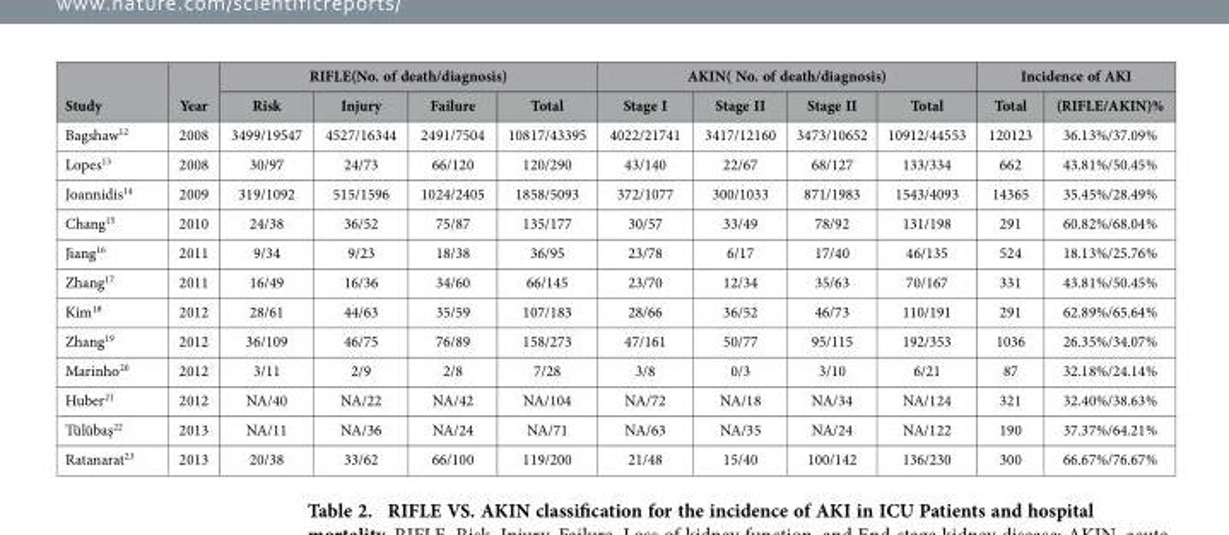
<table><thead><tr><td rowspan="2">Study</td><td rowspan="2">Year</td><td colspan="4">RIFLE(No. of death/diagnosis)</td><td colspan="4">AKIN( No. of death/diagnosis)</td><td colspan="2">Incidence of AKI</td></tr><tr><td>Risk</td><td>Injury</td><td>Failure</td><td>Total</td><td>Stage I</td><td>Stage II</td><td>Stage II</td><td>Total</td><td>Total</td><td>(RIFLE/AKIN)%</td></tr></thead><tbody><tr><td>Bagshaw<sup>12</sup></td><td>2008</td><td>3499/19547</td><td>4527/16344</td><td>2491/7504</td><td>10817/43395</td><td>4022/21741</td><td>3417/12160</td><td>3473/10652</td><td>10912/44553</td><td>120123</td><td>36.13%/37.09%</td></tr><tr><td>Lopes<sup>13</sup></td><td>2008</td><td>30/97</td><td>24/73</td><td>66/120</td><td>120/290</td><td>43/140</td><td>22/67</td><td>68/127</td><td>133/334</td><td>662</td><td>43.81%/50.45%</td></tr><tr><td>Joannidis<sup>14</sup></td><td>2009</td><td>319/1092</td><td>515/1596</td><td>1024/2405</td><td>1858/5093</td><td>372/1077</td><td>300/1033</td><td>871/1983</td><td>1543/4093</td><td>14365</td><td>35.45%/28.49%</td></tr><tr><td>Chang<sup>15</sup></td><td>2010</td><td>24/38</td><td>36/52</td><td>75/87</td><td>135/177</td><td>30/57</td><td>33/49</td><td>78/92</td><td>131/198</td><td>291</td><td>60.82%/68.04%</td></tr><tr><td>Jiang<sup>16</sup></td><td>2011</td><td>9/34</td><td>9/23</td><td>18/38</td><td>36/95</td><td>23/78</td><td>6/17</td><td>17/40</td><td>46/135</td><td>524</td><td>18.13%/25.76%</td></tr><tr><td>Zhang<sup>17</sup></td><td>2011</td><td>16/49</td><td>16/36</td><td>34/60</td><td>66/145</td><td>23/70</td><td>12/34</td><td>35/63</td><td>70/167</td><td>331</td><td>43.81%/50.45%</td></tr><tr><td>Kim<sup>18</sup></td><td>2012</td><td>28/61</td><td>44/63</td><td>35/59</td><td>107/183</td><td>28/66</td><td>36/52</td><td>46/73</td><td>110/191</td><td>291</td><td>62.89%/65.64%</td></tr><tr><td>Zhang<sup>19</sup></td><td>2012</td><td>36/109</td><td>46/75</td><td>76/89</td><td>158/273</td><td>47/161</td><td>50/77</td><td>95/115</td><td>192/353</td><td>1036</td><td>26.35%/34.07%</td></tr><tr><td>Marinho<sup>20</sup></td><td>2012</td><td>3/11</td><td>2/9</td><td>2/8</td><td>7/28</td><td>3/8</td><td>0/3</td><td>3/10</td><td>6/21</td><td>87</td><td>32.18%/24.14%</td></tr><tr><td>Huber<sup>21</sup></td><td>2012</td><td>NA/40</td><td>NA/22</td><td>NA/42</td><td>NA/104</td><td>NA/72</td><td>NA/18</td><td>NA/34</td><td>NA/124</td><td>321</td><td>32.40%/38.63%</td></tr><tr><td>Tülübaş<sup>22</sup></td><td>2013</td><td>NA/11</td><td>NA/36</td><td>NA/24</td><td>NA/71</td><td>NA/63</td><td>NA/35</td><td>NA/24</td><td>NA/122</td><td>190</td><td>37.37%/64.21%</td></tr><tr><td>Ratanarat<sup>23</sup></td><td>2013</td><td>20/38</td><td>33/62</td><td>66/100</td><td>119/200</td><td>21/48</td><td>15/40</td><td>100/142</td><td>136/230</td><td>300</td><td>66.67%/76.67%</td></tr></tbody></table>